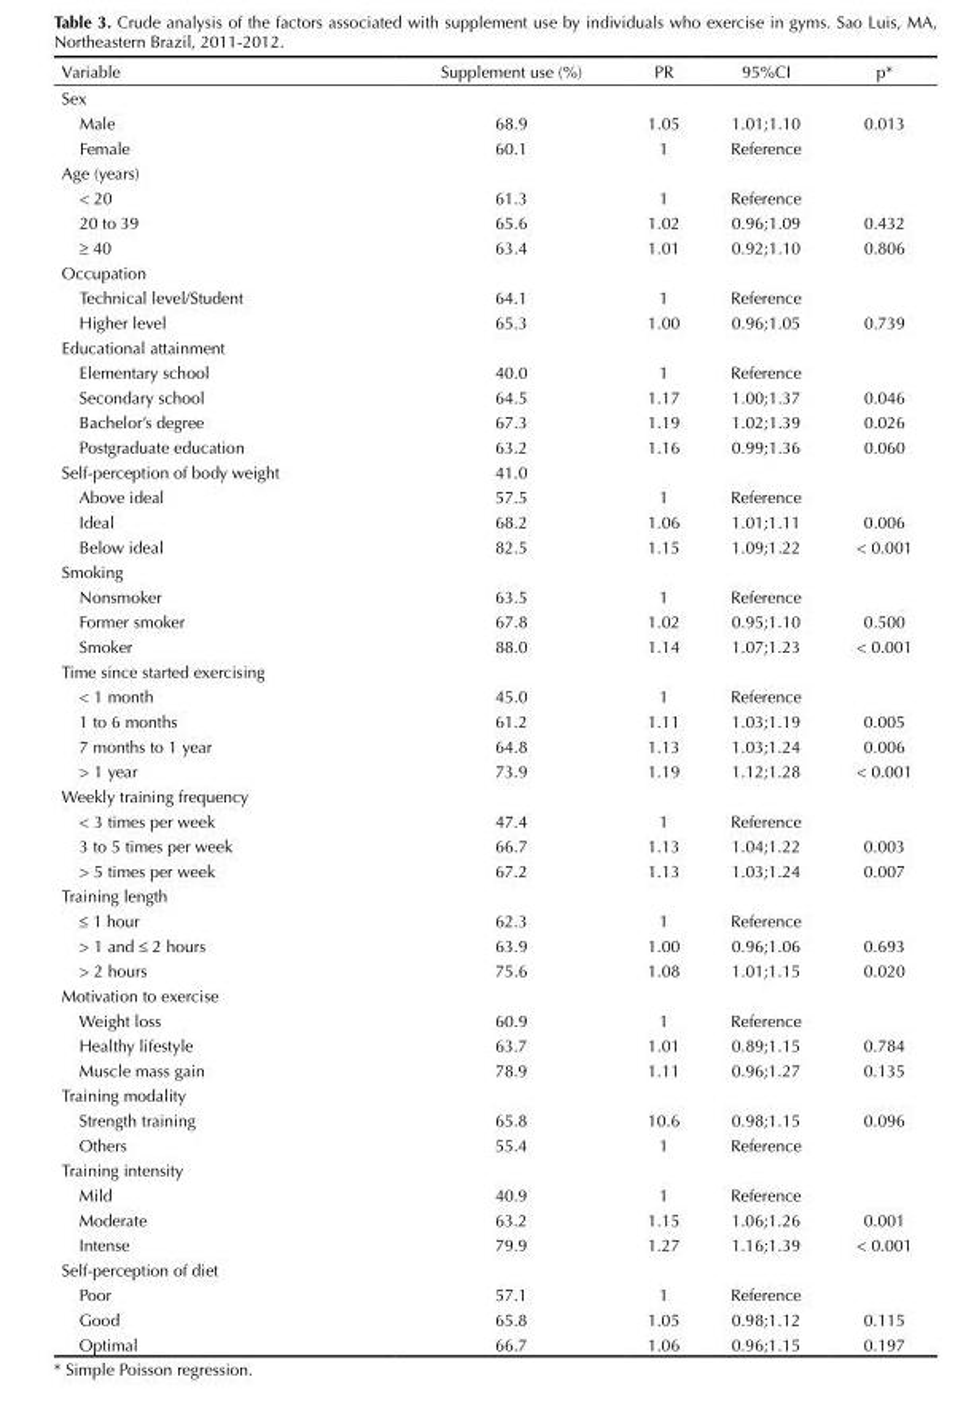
<table><thead><tr><td>Variable</td><td>Supplement use (%)</td><td>PR</td><td>95%CI</td><td>p*</td></tr></thead><tbody><tr><td colspan="5">Sex</td></tr><tr><td>Male</td><td>68.9</td><td>1.05</td><td>1.01;1.10</td><td>0.013</td></tr><tr><td>Female</td><td>60.1</td><td>1</td><td>Reference</td><td></td></tr><tr><td colspan="5">Age (years)</td></tr><tr><td>&lt; 20</td><td>61.3</td><td>1</td><td>Reference</td><td></td></tr><tr><td>20 to 39</td><td>65.6</td><td>1.02</td><td>0.96;1.09</td><td>0.432</td></tr><tr><td>≥ 40</td><td>63.4</td><td>1.01</td><td>0.92;1.10</td><td>0.806</td></tr><tr><td colspan="5">Occupation</td></tr><tr><td>Technical level/Student</td><td>64.1</td><td>1</td><td>Reference</td><td></td></tr><tr><td>Higher level</td><td>65.3</td><td>1.00</td><td>0.96;1.05</td><td>0.739</td></tr><tr><td colspan="5">Educational attainment</td></tr><tr><td>Elementary school</td><td>40.0</td><td>1</td><td>Reference</td><td></td></tr><tr><td>Secondary school</td><td>64.5</td><td>1.17</td><td>1.00;1.37</td><td>0.046</td></tr><tr><td>Bachelor’s degree</td><td>67.3</td><td>1.19</td><td>1.02;1.39</td><td>0.026</td></tr><tr><td>Postgraduate education</td><td>63.2</td><td>1.16</td><td>0.99;1.36</td><td>0.060</td></tr><tr><td>Self-perception of body weight</td><td>41.0</td><td></td><td></td><td></td></tr><tr><td>Above ideal</td><td>57.5</td><td>1</td><td>Reference</td><td></td></tr><tr><td>Ideal</td><td>68.2</td><td>1.06</td><td>1.01;1.11</td><td>0.006</td></tr><tr><td>Below ideal</td><td>82.5</td><td>1.15</td><td>1.09;1.22</td><td>&lt; 0.001</td></tr><tr><td colspan="5">Smoking</td></tr><tr><td>Nonsmoker</td><td>63.5</td><td>1</td><td>Reference</td><td></td></tr><tr><td>Former smoker</td><td>67.8</td><td>1.02</td><td>0.95;1.10</td><td>0.500</td></tr><tr><td>Smoker</td><td>88.0</td><td>1.14</td><td>1.07;1.23</td><td>&lt; 0.001</td></tr><tr><td colspan="5">Time since started exercising</td></tr><tr><td>&lt; 1 month</td><td>45.0</td><td>1</td><td>Reference</td><td></td></tr><tr><td>1 to 6 months</td><td>61.2</td><td>1.11</td><td>1.03;1.19</td><td>0.005</td></tr><tr><td>7 months to 1 year</td><td>64.8</td><td>1.13</td><td>1.03;1.24</td><td>0.006</td></tr><tr><td>&gt; 1 year</td><td>73.9</td><td>1.19</td><td>1.12;1.28</td><td>&lt; 0.001</td></tr><tr><td colspan="5">Weekly training frequency</td></tr><tr><td>&lt; 3 times per week</td><td>47.4</td><td>1</td><td>Reference</td><td></td></tr><tr><td>3 to 5 times per week</td><td>66.7</td><td>1.13</td><td>1.04;1.22</td><td>0.003</td></tr><tr><td>&gt; 5 times per week</td><td>67.2</td><td>1.13</td><td>1.03;1.24</td><td>0.007</td></tr><tr><td colspan="5">Training length</td></tr><tr><td>≤ 1 hour</td><td>62.3</td><td>1</td><td>Reference</td><td></td></tr><tr><td>&gt; 1 and ≤ 2 hours</td><td>63.9</td><td>1.00</td><td>0.96;1.06</td><td>0.693</td></tr><tr><td>&gt; 2 hours</td><td>75.6</td><td>1.08</td><td>1.01;1.15</td><td>0.020</td></tr><tr><td colspan="5">Motivation to exercise</td></tr><tr><td>Weight loss</td><td>60.9</td><td>1</td><td>Reference</td><td></td></tr><tr><td>Healthy lifestyle</td><td>63.7</td><td>1.01</td><td>0.89;1.15</td><td>0.784</td></tr><tr><td>Muscle mass gain</td><td>78.9</td><td>1.11</td><td>0.96;1.27</td><td>0.135</td></tr><tr><td colspan="5">Training modality</td></tr><tr><td>Strength training</td><td>65.8</td><td>10.6</td><td>0.98;1.15</td><td>0.096</td></tr><tr><td>Others</td><td>55.4</td><td>1</td><td>Reference</td><td></td></tr><tr><td colspan="5">Training intensity</td></tr><tr><td>Mild</td><td>40.9</td><td>1</td><td>Reference</td><td></td></tr><tr><td>Moderate</td><td>63.2</td><td>1.15</td><td>1.06;1.26</td><td>0.001</td></tr><tr><td>Intense</td><td>79.9</td><td>1.27</td><td>1.16;1.39</td><td>&lt; 0.001</td></tr><tr><td colspan="5">Self-perception of diet</td></tr><tr><td>Poor</td><td>57.1</td><td>1</td><td>Reference</td><td></td></tr><tr><td>Good</td><td>65.8</td><td>1.05</td><td>0.98;1.12</td><td>0.115</td></tr><tr><td>Optimal</td><td>66.7</td><td>1.06</td><td>0.96;1.15</td><td>0.197</td></tr></tbody></table>